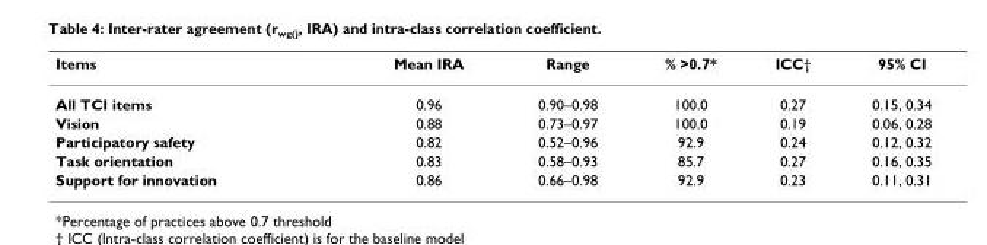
<table><thead><tr><td>Items</td><td>Mean IRA</td><td>Range</td><td>% &gt;0.7*</td><td>ICC†</td><td>95% CI</td></tr></thead><tbody><tr><td>All TCI items</td><td>0.96</td><td>0.90–0.98</td><td>100.0</td><td>0.27</td><td>0.15, 0.34</td></tr><tr><td>Vision</td><td>0.88</td><td>0.73–0.97</td><td>100.0</td><td>0.19</td><td>0.06, 0.28</td></tr><tr><td>Participatory safety</td><td>0.82</td><td>0.52–0.96</td><td>92.9</td><td>0.24</td><td>0.12, 0.32</td></tr><tr><td>Task orientation</td><td>0.83</td><td>0.58–0.93</td><td>85.7</td><td>0.27</td><td>0.16, 0.35</td></tr><tr><td>Support for innovation</td><td>0.86</td><td>0.66–0.98</td><td>92.9</td><td>0.23</td><td>0.11, 0.31</td></tr></tbody></table>